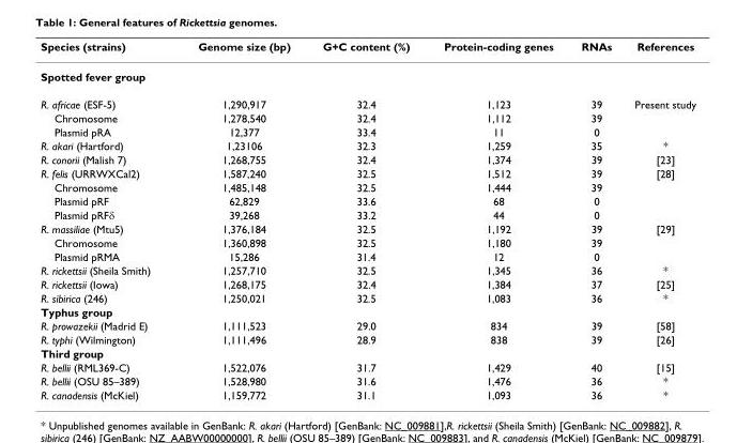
<table><thead><tr><td>Species (strains)</td><td>Genome size (bp)</td><td>G+C content (%)</td><td>Protein-coding genes</td><td>RNAs</td><td>References</td></tr></thead><tbody><tr><td colspan="6">Spotted fever group</td></tr><tr><td>R. africae (ESF-5)</td><td>1,290,917</td><td>32.4</td><td>1,123</td><td>39</td><td>Present study</td></tr><tr><td>Chromosome</td><td>1,278,540</td><td>32.4</td><td>1,112</td><td>39</td><td></td></tr><tr><td>Plasmid pRA</td><td>12,377</td><td>33.4</td><td>11</td><td>0</td><td></td></tr><tr><td>R. akari (Hartford)</td><td>1,23106</td><td>32.3</td><td>1,259</td><td>35</td><td>*</td></tr><tr><td>R. conorii (Malish 7)</td><td>1,268,755</td><td>32.4</td><td>1,374</td><td>39</td><td>[23]</td></tr><tr><td>R. felis (URRWXCal2)</td><td>1,587,240</td><td>32.5</td><td>1,512</td><td>39</td><td>[28]</td></tr><tr><td>Chromosome</td><td>1,485,148</td><td>32.5</td><td>1,444</td><td>39</td><td></td></tr><tr><td>Plasmid pRF</td><td>62,829</td><td>33.6</td><td>68</td><td>0</td><td></td></tr><tr><td>Plasmid pRFδ</td><td>39,268</td><td>33.2</td><td>44</td><td>0</td><td></td></tr><tr><td>R. massiliae (Mtu5)</td><td>1,376,184</td><td>32.5</td><td>1,192</td><td>39</td><td>[29]</td></tr><tr><td>Chromosome</td><td>1,360,898</td><td>32.5</td><td>1,180</td><td>39</td><td></td></tr><tr><td>Plasmid pRMA</td><td>15,286</td><td>31.4</td><td>12</td><td>0</td><td></td></tr><tr><td>R. rickettsii (Sheila Smith)</td><td>1,257,710</td><td>32.5</td><td>1,345</td><td>36</td><td>*</td></tr><tr><td>R. rickettsii (Iowa)</td><td>1,268,175</td><td>32.4</td><td>1,384</td><td>37</td><td>[25]</td></tr><tr><td>R. sibirica (246)</td><td>1,250,021</td><td>32.5</td><td>1,083</td><td>36</td><td>*</td></tr><tr><td colspan="6">Typhus group</td></tr><tr><td>R. prowazekii (Madrid E)</td><td>1,111,523</td><td>29.0</td><td>834</td><td>39</td><td>[58]</td></tr><tr><td>R. typhi (Wilmington)</td><td>1,111,496</td><td>28.9</td><td>838</td><td>39</td><td>[26]</td></tr><tr><td colspan="6">Third group</td></tr><tr><td>R. bellii (RML369-C)</td><td>1,522,076</td><td>31.7</td><td>1,429</td><td>40</td><td>[15]</td></tr><tr><td>R. bellii (OSU 85–389)</td><td>1,528,980</td><td>31.6</td><td>1,476</td><td>36</td><td>*</td></tr><tr><td>R. canadensis (McKiel)</td><td>1,159,772</td><td>31.1</td><td>1,093</td><td>36</td><td>*</td></tr></tbody></table>